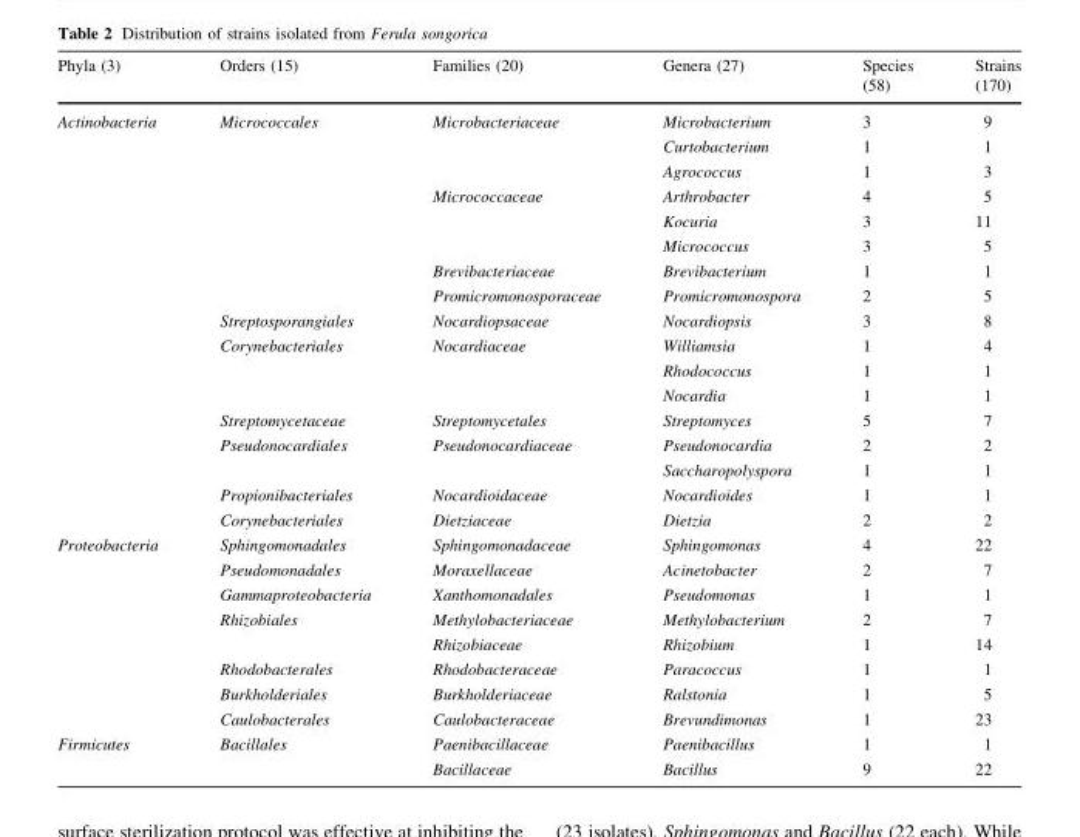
<table><thead><tr><td rowspan="2">Phyla (3)</td><td rowspan="2">Orders (15)</td><td rowspan="2">Families (20)</td><td rowspan="2">Genera (27)</td><td rowspan="2">Species (58)</td><td rowspan="2">Strains (170)</td></tr><tr></tr></thead><tbody><tr><td rowspan="17">Actinobacteria</td><td rowspan="8">Micrococcales</td><td rowspan="3">Microbacteriaceae</td><td>Microbacterium</td><td>3</td><td>9</td></tr><tr><td>Curtobacterium</td><td>1</td><td>1</td></tr><tr><td>Agrococcus</td><td>1</td><td>3</td></tr><tr><td rowspan="3">Micrococcaceae</td><td>Arthrobacter</td><td>4</td><td>5</td></tr><tr><td>Kocuria</td><td>3</td><td>11</td></tr><tr><td>Micrococcus</td><td>3</td><td>5</td></tr><tr><td>Brevibacteriaceae</td><td>Brevibacterium</td><td>1</td><td>1</td></tr><tr><td>Promicromonosporaceae</td><td>Promicromonospora</td><td>2</td><td>5</td></tr><tr><td>Streptosporangiales</td><td>Nocardiopsaceae</td><td>Nocardiopsis</td><td>3</td><td>8</td></tr><tr><td rowspan="3">Corynebacteriales</td><td rowspan="3">Nocardiaceae</td><td>Williamsia</td><td>1</td><td>4</td></tr><tr><td>Rhodococcus</td><td>1</td><td>1</td></tr><tr><td>Nocardia</td><td>1</td><td>1</td></tr><tr><td>Streptomycetaceae</td><td>Streptomycetales</td><td>Streptomyces</td><td>5</td><td>7</td></tr><tr><td rowspan="2">Pseudonocardiales</td><td rowspan="2">Pseudonocardiaceae</td><td>Pseudonocardia</td><td>2</td><td>2</td></tr><tr><td>Saccharopolyspora</td><td>1</td><td>1</td></tr><tr><td>Propionibacteriales</td><td>Nocardioidaceae</td><td>Nocardioides</td><td>1</td><td>1</td></tr><tr><td>Corynebacteriales</td><td>Dietziaceae</td><td>Dietzia</td><td>2</td><td>2</td></tr><tr><td rowspan="8">Proteobacteria</td><td>Sphingomonadales</td><td>Sphingomonadaceae</td><td>Sphingomonas</td><td>4</td><td>22</td></tr><tr><td>Pseudomonadales</td><td>Moraxellaceae</td><td>Acinetobacter</td><td>2</td><td>7</td></tr><tr><td>Gammaproteobacteria</td><td>Xanthomonadales</td><td>Pseudomonas</td><td>1</td><td>1</td></tr><tr><td rowspan="2">Rhizobiales</td><td>Methylobacteriaceae</td><td>Methylobacterium</td><td>2</td><td>7</td></tr><tr><td>Rhizobiaceae</td><td>Rhizobium</td><td>1</td><td>14</td></tr><tr><td>Rhodobacterales</td><td>Rhodobacteraceae</td><td>Paracoccus</td><td>1</td><td>1</td></tr><tr><td>Burkholderiales</td><td>Burkholderiaceae</td><td>Ralstonia</td><td>1</td><td>5</td></tr><tr><td>Caulobacterales</td><td>Caulobacteraceae</td><td>Brevundimonas</td><td>1</td><td>23</td></tr><tr><td rowspan="2">Firmicutes</td><td rowspan="2">Bacillales</td><td>Paenibacillaceae</td><td>Paenibacillus</td><td>1</td><td>1</td></tr><tr><td>Bacillaceae</td><td>Bacillus</td><td>9</td><td>22</td></tr></tbody></table>